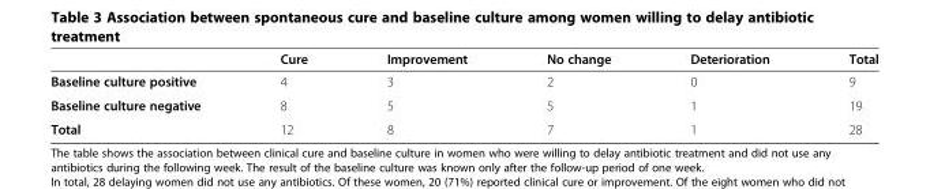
<table><thead><tr><td></td><td>Cure</td><td>Improvement</td><td>No change</td><td>Deterioration</td><td>Total</td></tr></thead><tbody><tr><td>Baseline culture positive</td><td>4</td><td>3</td><td>2</td><td>0</td><td>9</td></tr><tr><td>Baseline culture negative</td><td>8</td><td>5</td><td>5</td><td>1</td><td>19</td></tr><tr><td>Total</td><td>12</td><td>8</td><td>7</td><td>1</td><td>28</td></tr></tbody></table>